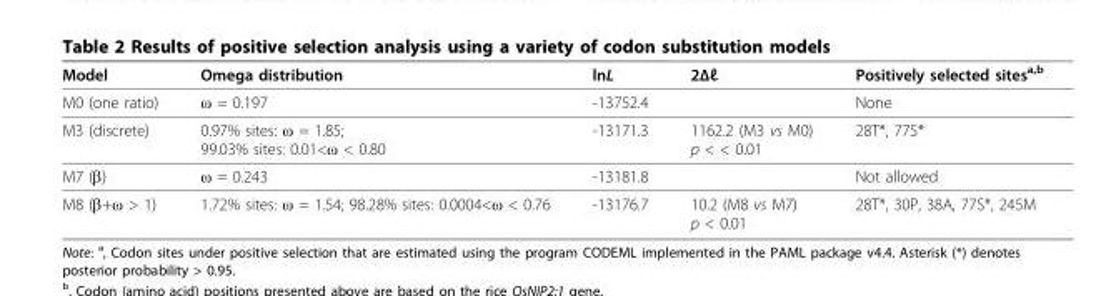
<table><thead><tr><td>Model</td><td>Omega distribution</td><td>lnL</td><td>2Δℓ</td><td>Positively selected sites<sup>a,b</sup></td></tr></thead><tbody><tr><td>M0 (one ratio)</td><td>ω = 0.197</td><td>-13752.4</td><td></td><td>None</td></tr><tr><td>M3 (discrete)</td><td>0.97% sites: ω = 1.85; 99.03% sites: 0.01&lt;ω &lt; 0.80</td><td>-13171.3</td><td>1162.2 (M3 vs M0) p &lt; &lt; 0.01</td><td>28T*, 77S*</td></tr><tr><td>M7 (β)</td><td>ω = 0.243</td><td>-13181.8</td><td></td><td>Not allowed</td></tr><tr><td>M8 (β+ω &gt; 1)</td><td>1.72% sites: ω = 1.54; 98.28% sites: 0.0004&lt;ω &lt; 0.76</td><td>-13176.7</td><td>10.2 (M8 vs M7) p &lt; 0.01</td><td>28T*, 30P, 38A, 77S*, 245M</td></tr></tbody></table>